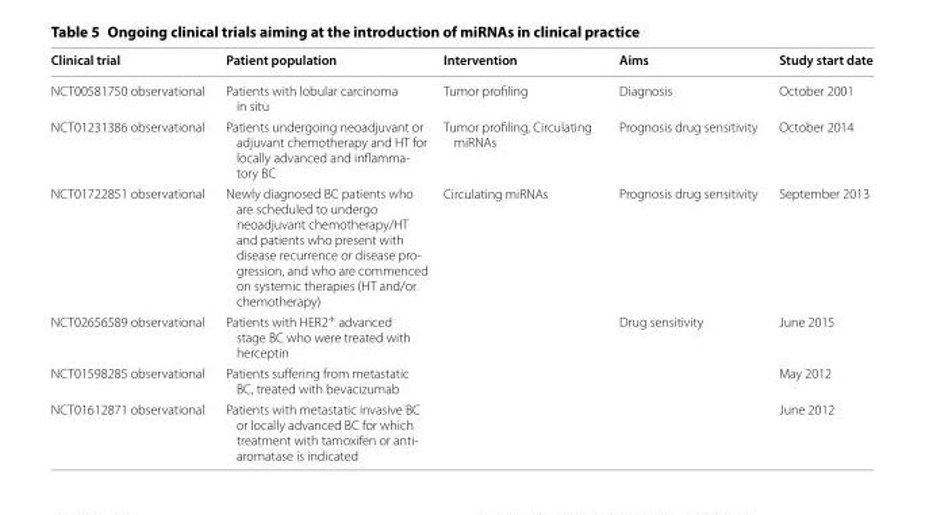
<table><thead><tr><td>Clinical trial</td><td>Patient population</td><td>Intervention</td><td>Aims</td><td>Study start date</td></tr></thead><tbody><tr><td>NCT00581750 observational</td><td>Patients with lobular carcinoma in situ</td><td>Tumor profiling</td><td>Diagnosis</td><td>October 2001</td></tr><tr><td>NCT01231386 observational</td><td>Patients undergoing neoadjuvant or adjuvant chemotherapy and HT for locally advanced and inflamma- tory BC</td><td>Tumor profiling, Circulating miRNAs</td><td>Prognosis drug sensitivity</td><td>October 2014</td></tr><tr><td>NCT01722851 observational</td><td>Newly diagnosed BC patients who are scheduled to undergo neoadjuvant chemotherapy/HT and patients who present with disease recurrence or disease pro- gression, and who are commenced on systemic therapies (HT and/or chemotherapy)</td><td rowspan="4">Circulating miRNAs</td><td>Prognosis drug sensitivity</td><td>September 2013</td></tr><tr><td>NCT02656589 observational</td><td>Patients with HER2<sup>+</sup> advanced stage BC who were treated with herceptin</td><td rowspan="3">Drug sensitivity</td><td>June 2015</td></tr><tr><td>NCT01598285 observational</td><td>Patients suffering from metastatic BC, treated with bevacizumab</td><td>May 2012</td></tr><tr><td>NCT01612871 observational</td><td>Patients with metastatic invasive BC or locally advanced BC for which treatment with tamoxifen or anti- aromatase is indicated</td><td>June 2012</td></tr></tbody></table>